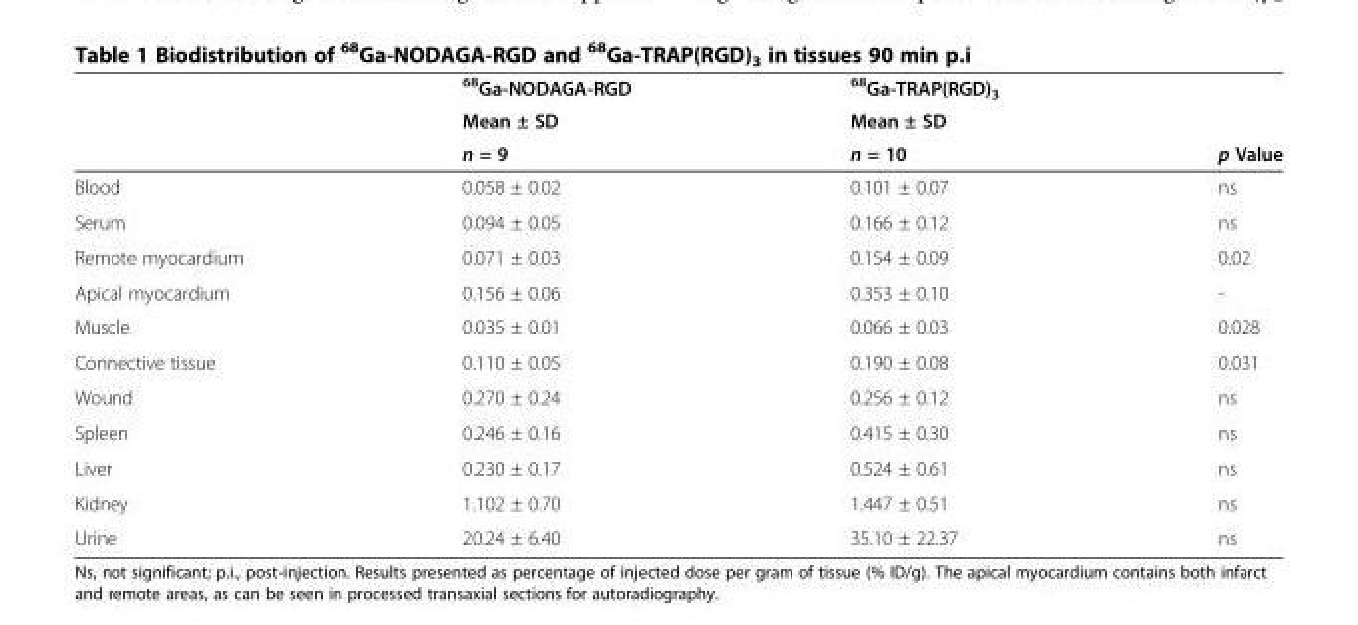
<table><thead><tr><td rowspan="3"></td><td rowspan="3"><sup>68</sup>Ga-NODAGA-RGD Mean ± SD n = 9</td><td rowspan="3"><sup>68</sup>Ga-TRAP(RGD)<sub>3</sub> Mean ± SD n = 10</td><td rowspan="3">p Value</td></tr><tr></tr><tr></tr></thead><tbody><tr><td>Blood</td><td>0.058 ± 0.02</td><td>0.101 ± 0.07</td><td>ns</td></tr><tr><td>Serum</td><td>0.094 ± 0.05</td><td>0.166 ± 0.12</td><td>ns</td></tr><tr><td>Remote myocardium</td><td>0.071 ± 0.03</td><td>0.154 ± 0.09</td><td>0.02</td></tr><tr><td>Apical myocardium</td><td>0.156 ± 0.06</td><td>0.353 ± 0.10</td><td>-</td></tr><tr><td>Muscle</td><td>0.035 ± 0.01</td><td>0.066 ± 0.03</td><td>0.028</td></tr><tr><td>Connective tissue</td><td>0.110 ± 0.05</td><td>0.190 ± 0.08</td><td>0.031</td></tr><tr><td>Wound</td><td>0.270 ± 0.24</td><td>0.256 ± 0.12</td><td>ns</td></tr><tr><td>Spleen</td><td>0.246 ± 0.16</td><td>0.415 ± 0.30</td><td>ns</td></tr><tr><td>Liver</td><td>0.230 ± 0.17</td><td>0.524 ± 0.61</td><td>ns</td></tr><tr><td>Kidney</td><td>1.102 ± 0.70</td><td>1.447 ± 0.51</td><td>ns</td></tr><tr><td>Urine</td><td>20.24 ± 6.40</td><td>35.10 ± 22.37</td><td>ns</td></tr></tbody></table>